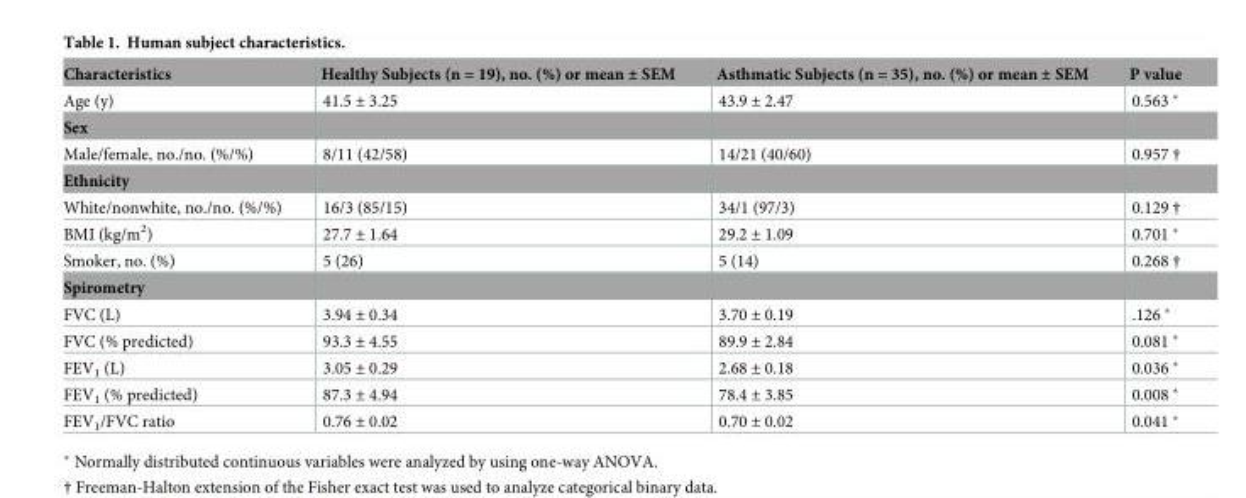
<table><thead><tr><td>Characteristics</td><td>Healthy Subjects (n = 19), no. (%) or mean ± SEM</td><td>Asthmatic Subjects (n = 35), no. (%) or mean ± SEM</td><td>P value</td></tr></thead><tbody><tr><td>Age (y)</td><td>41.5 ± 3.25</td><td>43.9 ± 2.47</td><td>0.563 *</td></tr><tr><td colspan="4">Sex</td></tr><tr><td>Male/female, no./no. (%/%)</td><td>8/11 (42/58)</td><td>14/21 (40/60)</td><td>0.957 †</td></tr><tr><td colspan="4">Ethnicity</td></tr><tr><td>White/nonwhite, no./no. (%/%)</td><td>16/3 (85/15)</td><td>34/1 (97/3)</td><td>0.129 †</td></tr><tr><td>BMI (kg/m<sup>2</sup>)</td><td>27.7 ± 1.64</td><td>29.2 ± 1.09</td><td>0.701 *</td></tr><tr><td>Smoker, no. (%)</td><td>5 (26)</td><td>5 (14)</td><td>0.268 †</td></tr><tr><td colspan="4">Spirometry</td></tr><tr><td>FVC (L)</td><td>3.94 ± 0.34</td><td>3.70 ± 0.19</td><td>.126 *</td></tr><tr><td>FVC (% predicted)</td><td>93.3 ± 4.55</td><td>89.9 ± 2.84</td><td>0.081 *</td></tr><tr><td>FEV<sub>1</sub> (L)</td><td>3.05 ± 0.29</td><td>2.68 ± 0.18</td><td>0.036 *</td></tr><tr><td>FEV<sub>1</sub> (% predicted)</td><td>87.3 ± 4.94</td><td>78.4 ± 3.85</td><td>0.008 *</td></tr><tr><td>FEV<sub>1</sub>/FVC ratio</td><td>0.76 ± 0.02</td><td>0.70 ± 0.02</td><td>0.041 *</td></tr></tbody></table>